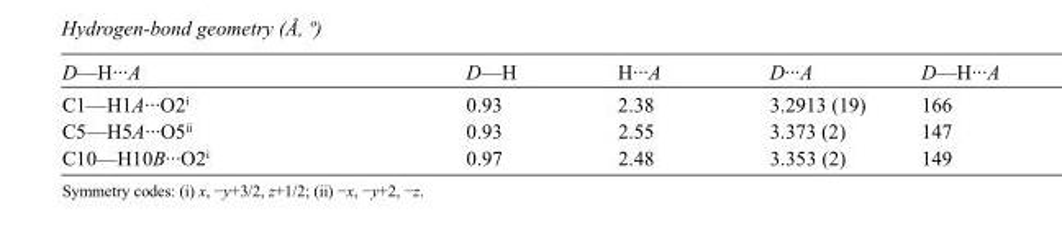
<table><tbody><tr><td>D—H···A</td><td>D—H</td><td>H···A</td><td>D···A</td><td>D—H···A</td></tr><tr><td>C1—H1A···O2<sup>i</sup></td><td>0.93</td><td>2.38</td><td>3.2913 (19)</td><td>166</td></tr><tr><td>C5—H5A···O5<sup>ii</sup></td><td>0.93</td><td>2.55</td><td>3.373 (2)</td><td>147</td></tr><tr><td>C10—H10B···O2<sup>i</sup></td><td>0.97</td><td>2.48</td><td>3.353 (2)</td><td>149</td></tr></tbody></table>